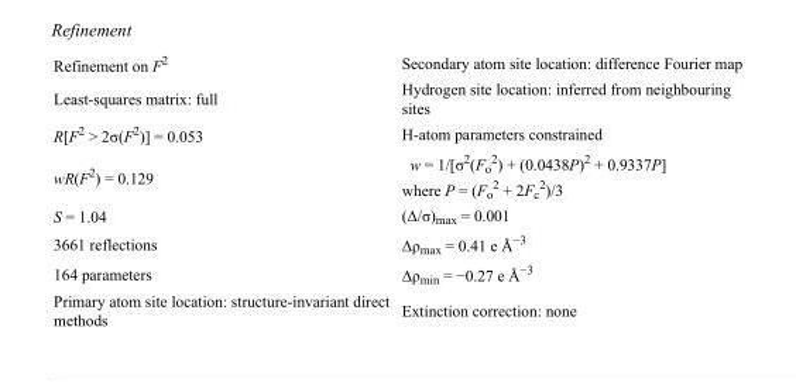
<table><tbody><tr><td>Refinement on F<sup>2</sup></td><td>Secondary atom site location: difference Fourier map</td></tr><tr><td>Least-squares matrix: full</td><td>Hydrogen site location: inferred from neighbouring sites</td></tr><tr><td>R[F<sup>2</sup> &gt; 2σ(F<sup>2</sup>)] = 0.053</td><td>H-atom parameters constrained</td></tr><tr><td>wR(F<sup>2</sup>) = 0.129</td><td>w = 1/[σ<sup>2</sup>(F<sub>o</sub> <sup>2</sup>) + (0.0438P)<sup>2</sup> + 0.9337P] where P = (F<sub>o</sub> <sup>2</sup> + 2F<sub>c</sub> <sup>2</sup>)/3</td></tr><tr><td>S = 1.04</td><td>(Δ/σ)<sub>max</sub> = 0.001</td></tr><tr><td>3661 reflections</td><td>Δρ<sub>max</sub> = 0.41 e Å<sup>−3</sup></td></tr><tr><td>164 parameters</td><td>Δρ<sub>min</sub> = −0.27 e Å<sup>−3</sup></td></tr><tr><td>Primary atom site location: structure-invariant direct methods</td><td>Extinction correction: none</td></tr></tbody></table>